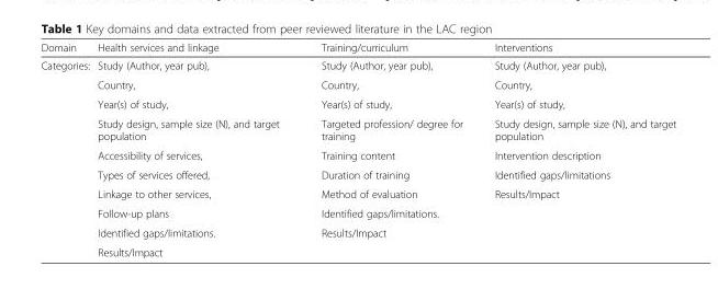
<table><thead><tr><td>Domain</td><td>Health services and linkage</td><td>Training/curriculum</td><td>Interventions</td></tr></thead><tbody><tr><td rowspan="10">Categories:</td><td>Study (Author, year pub),</td><td>Study (Author, year pub),</td><td>Study (Author, year pub),</td></tr><tr><td>Country,</td><td>Country,</td><td>Country,</td></tr><tr><td>Year(s) of study,</td><td>Year(s) of study,</td><td>Year(s) of study,</td></tr><tr><td>Study design, sample size (N), and target population</td><td>Targeted profession/ degree for training</td><td>Study design, sample size (N), and target population</td></tr><tr><td>Accessibility of services,</td><td>Training content</td><td>Intervention description</td></tr><tr><td>Types of services offered,</td><td>Duration of training</td><td>Identified gaps/limitations</td></tr><tr><td>Linkage to other services,</td><td>Method of evaluation</td><td>Results/Impact</td></tr><tr><td>Follow-up plans</td><td>Identified gaps/limitations.</td><td></td></tr><tr><td>Identified gaps/limitations.</td><td>Results/Impact</td><td></td></tr><tr><td>Results/Impact</td><td></td><td></td></tr></tbody></table>